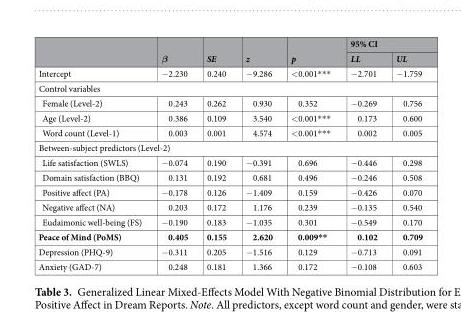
<table><thead><tr><td rowspan="2"></td><td rowspan="2">β</td><td rowspan="2">SE</td><td rowspan="2">z</td><td rowspan="2">p</td><td colspan="2">95% CI</td></tr><tr><td>LL</td><td>UL</td></tr></thead><tbody><tr><td>Intercept</td><td>−2.230</td><td>0.240</td><td>−9.286</td><td>&lt;0.001***</td><td>−2.701</td><td>−1.759</td></tr><tr><td colspan="7">Control variables</td></tr><tr><td>Female (Level-2)</td><td>0.243</td><td>0.262</td><td>0.930</td><td>0.352</td><td>−0.269</td><td>0.756</td></tr><tr><td>Age (Level-2)</td><td>0.386</td><td>0.109</td><td>3.540</td><td>&lt;0.001***</td><td>0.173</td><td>0.600</td></tr><tr><td>Word count (Level-1)</td><td>0.003</td><td>0.001</td><td>4.574</td><td>&lt;0.001***</td><td>0.002</td><td>0.005</td></tr><tr><td colspan="7">Between-subject predictors (Level-2)</td></tr><tr><td>Life satisfaction (SWLS)</td><td>−0.074</td><td>0.190</td><td>−0.391</td><td>0.696</td><td>−0.446</td><td>0.298</td></tr><tr><td>Domain satisfaction (BBQ)</td><td>0.131</td><td>0.192</td><td>0.681</td><td>0.496</td><td>−0.246</td><td>0.508</td></tr><tr><td>Positive affect (PA)</td><td>−0.178</td><td>0.126</td><td>−1.409</td><td>0.159</td><td>−0.426</td><td>0.070</td></tr><tr><td>Negative affect (NA)</td><td>0.203</td><td>0.172</td><td>1.176</td><td>0.239</td><td>−0.135</td><td>0.540</td></tr><tr><td>Eudaimonic well-being (FS)</td><td>−0.190</td><td>0.183</td><td>−1.035</td><td>0.301</td><td>−0.549</td><td>0.170</td></tr><tr><td>Peace of Mind (PoMS)</td><td>0.405</td><td>0.155</td><td>2.620</td><td>0.009**</td><td>0.102</td><td>0.709</td></tr><tr><td>Depression (PHQ-9)</td><td>−0.311</td><td>0.205</td><td>−1.516</td><td>0.129</td><td>−0.713</td><td>0.091</td></tr><tr><td>Anxiety (GAD-7)</td><td>0.248</td><td>0.181</td><td>1.366</td><td>0.172</td><td>−0.108</td><td>0.603</td></tr></tbody></table>